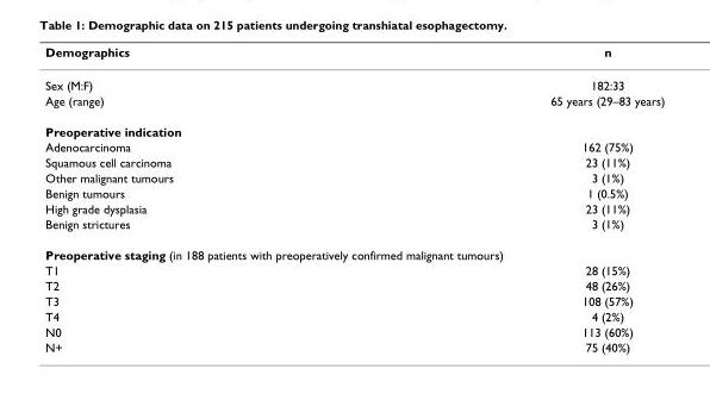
<table><thead><tr><td>Demographics</td><td>n</td></tr></thead><tbody><tr><td>Sex (M:F)</td><td>182:33</td></tr><tr><td>Age (range)</td><td>65 years (29–83 years)</td></tr><tr><td colspan="2">Preoperative indication</td></tr><tr><td>Adenocarcinoma</td><td>162 (75%)</td></tr><tr><td>Squamous cell carcinoma</td><td>23 (11%)</td></tr><tr><td>Other malignant tumours</td><td>3 (1%)</td></tr><tr><td>Benign tumours</td><td>1 (0.5%)</td></tr><tr><td>High grade dysplasia</td><td>23 (11%)</td></tr><tr><td>Benign strictures</td><td>3 (1%)</td></tr><tr><td colspan="2">Preoperative staging (in 188 patients with preoperatively confirmed malignant tumours)</td></tr><tr><td>T1</td><td>28 (15%)</td></tr><tr><td>T2</td><td>48 (26%)</td></tr><tr><td>T3</td><td>108 (57%)</td></tr><tr><td>T4</td><td>4 (2%)</td></tr><tr><td>N0</td><td>113 (60%)</td></tr><tr><td>N+</td><td>75 (40%)</td></tr></tbody></table>